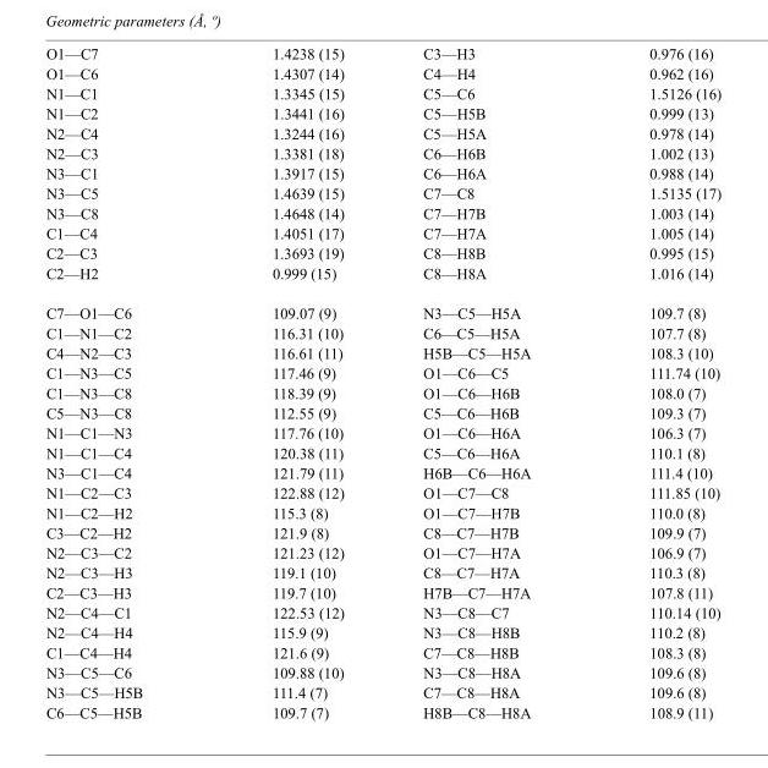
<table><tbody><tr><td>O1—C7</td><td>1.4238 (15)</td><td>C3—H3</td><td>0.976 (16)</td></tr><tr><td>O1—C6</td><td>1.4307 (14)</td><td>C4—H4</td><td>0.962 (16)</td></tr><tr><td>N1—C1</td><td>1.3345 (15)</td><td>C5—C6</td><td>1.5126 (16)</td></tr><tr><td>N1—C2</td><td>1.3441 (16)</td><td>C5—H5B</td><td>0.999 (13)</td></tr><tr><td>N2—C4</td><td>1.3244 (16)</td><td>C5—H5A</td><td>0.978 (14)</td></tr><tr><td>N2—C3</td><td>1.3381 (18)</td><td>C6—H6B</td><td>1.002 (13)</td></tr><tr><td>N3—C1</td><td>1.3917 (15)</td><td>C6—H6A</td><td>0.988 (14)</td></tr><tr><td>N3—C5</td><td>1.4639 (15)</td><td>C7—C8</td><td>1.5135 (17)</td></tr><tr><td>N3—C8</td><td>1.4648 (14)</td><td>C7—H7B</td><td>1.003 (14)</td></tr><tr><td>C1—C4</td><td>1.4051 (17)</td><td>C7—H7A</td><td>1.005 (14)</td></tr><tr><td>C2—C3</td><td>1.3693 (19)</td><td>C8—H8B</td><td>0.995 (15)</td></tr><tr><td>C2—H2</td><td>0.999 (15)</td><td>C8—H8A</td><td>1.016 (14)</td></tr><tr><td>C7—O1—C6</td><td>109.07 (9)</td><td>N3—C5—H5A</td><td>109.7 (8)</td></tr><tr><td>C1—N1—C2</td><td>116.31 (10)</td><td>C6—C5—H5A</td><td>107.7 (8)</td></tr><tr><td>C4—N2—C3</td><td>116.61 (11)</td><td>H5B—C5—H5A</td><td>108.3 (10)</td></tr><tr><td>C1—N3—C5</td><td>117.46 (9)</td><td>O1—C6—C5</td><td>111.74 (10)</td></tr><tr><td>C1—N3—C8</td><td>118.39 (9)</td><td>O1—C6—H6B</td><td>108.0 (7)</td></tr><tr><td>C5—N3—C8</td><td>112.55 (9)</td><td>C5—C6—H6B</td><td>109.3 (7)</td></tr><tr><td>N1—C1—N3</td><td>117.76 (10)</td><td>O1—C6—H6A</td><td>106.3 (7)</td></tr><tr><td>N1—C1—C4</td><td>120.38 (11)</td><td>C5—C6—H6A</td><td>110.1 (8)</td></tr><tr><td>N3—C1—C4</td><td>121.79 (11)</td><td>H6B—C6—H6A</td><td>111.4 (10)</td></tr><tr><td>N1—C2—C3</td><td>122.88 (12)</td><td>O1—C7—C8</td><td>111.85 (10)</td></tr><tr><td>N1—C2—H2</td><td>115.3 (8)</td><td>O1—C7—H7B</td><td>110.0 (8)</td></tr><tr><td>C3—C2—H2</td><td>121.9 (8)</td><td>C8—C7—H7B</td><td>109.9 (7)</td></tr><tr><td>N2—C3—C2</td><td>121.23 (12)</td><td>O1—C7—H7A</td><td>106.9 (7)</td></tr><tr><td>N2—C3—H3</td><td>119.1 (10)</td><td>C8—C7—H7A</td><td>110.3 (8)</td></tr><tr><td>C2—C3—H3</td><td>119.7 (10)</td><td>H7B—C7—H7A</td><td>107.8 (11)</td></tr><tr><td>N2—C4—C1</td><td>122.53 (12)</td><td>N3—C8—C7</td><td>110.14 (10)</td></tr><tr><td>N2—C4—H4</td><td>115.9 (9)</td><td>N3—C8—H8B</td><td>110.2 (8)</td></tr><tr><td>C1—C4—H4</td><td>121.6 (9)</td><td>C7—C8—H8B</td><td>108.3 (8)</td></tr><tr><td>N3—C5—C6</td><td>109.88 (10)</td><td>N3—C8—H8A</td><td>109.6 (8)</td></tr><tr><td>N3—C5—H5B</td><td>111.4 (7)</td><td>C7—C8—H8A</td><td>109.6 (8)</td></tr><tr><td>C6—C5—H5B</td><td>109.7 (7)</td><td>H8B—C8—H8A</td><td>108.9 (11)</td></tr></tbody></table>